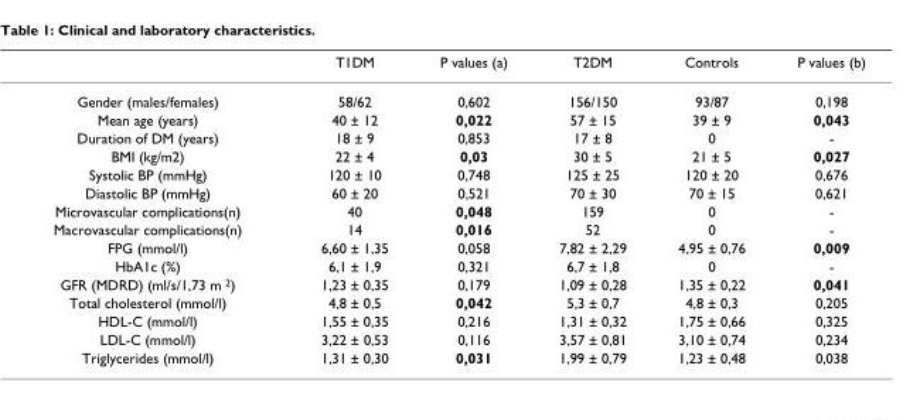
<table><thead><tr><td></td><td>T1DM</td><td>P values (a)</td><td>T2DM</td><td>Controls</td><td>P values (b)</td></tr></thead><tbody><tr><td>Gender (males/females)</td><td>58/62</td><td>0,602</td><td>156/150</td><td>93/87</td><td>0,198</td></tr><tr><td>Mean age (years)</td><td>40 ± 12</td><td>0,022</td><td>57 ± 15</td><td>39 ± 9</td><td>0,043</td></tr><tr><td>Duration of DM (years)</td><td>18 ± 9</td><td>0,853</td><td>17 ± 8</td><td>0</td><td>-</td></tr><tr><td>BMI (kg/m2)</td><td>22 ± 4</td><td>0,03</td><td>30 ± 5</td><td>21 ± 5</td><td>0,027</td></tr><tr><td>Systolic BP (mmHg)</td><td>120 ± 10</td><td>0,748</td><td>125 ± 25</td><td>120 ± 20</td><td>0,676</td></tr><tr><td>Diastolic BP (mmHg)</td><td>60 ± 20</td><td>0,521</td><td>70 ± 30</td><td>70 ± 15</td><td>0,621</td></tr><tr><td>Microvascular complications(n)</td><td>40</td><td>0,048</td><td>159</td><td>0</td><td>-</td></tr><tr><td>Macrovascular complications(n)</td><td>14</td><td>0,016</td><td>52</td><td>0</td><td>-</td></tr><tr><td>FPG (mmol/l)</td><td>6,60 ± 1,35</td><td>0,058</td><td>7,82 ± 2,29</td><td>4,95 ± 0,76</td><td>0,009</td></tr><tr><td>HbA1c (%)</td><td>6,1 ± 1,9</td><td>0,321</td><td>6,7 ± 1,8</td><td>0</td><td>-</td></tr><tr><td>GFR (MDRD) (ml/s/1,73 m <sup>2</sup>)</td><td>1,23 ± 0,35</td><td>0,179</td><td>1,09 ± 0,28</td><td>1,35 ± 0,22</td><td>0,041</td></tr><tr><td>Total cholesterol (mmol/l)</td><td>4,8 ± 0,5</td><td>0,042</td><td>5,3 ± 0,7</td><td>4,8 ± 0,3</td><td>0,205</td></tr><tr><td>HDL-C (mmol/l)</td><td>1,55 ± 0,35</td><td>0,216</td><td>1,31 ± 0,32</td><td>1,75 ± 0,66</td><td>0,325</td></tr><tr><td>LDL-C (mmol/l)</td><td>3,22 ± 0,53</td><td>0,116</td><td>3,57 ± 0,81</td><td>3,10 ± 0,74</td><td>0,234</td></tr><tr><td>Triglycerides (mmol/l)</td><td>1,31 ± 0,30</td><td>0,031</td><td>1,99 ± 0,79</td><td>1,23 ± 0,48</td><td>0,038</td></tr></tbody></table>